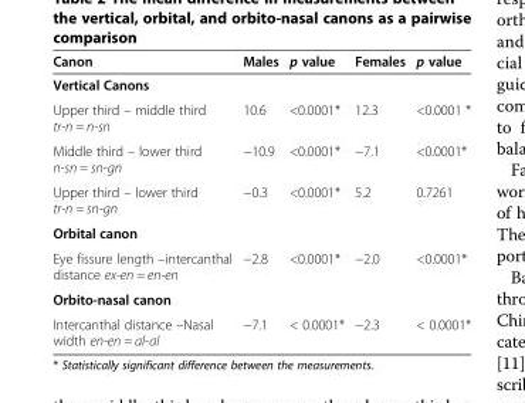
<table><thead><tr><td>Canon</td><td>Males</td><td>p value</td><td>Females</td><td>p value</td></tr></thead><tbody><tr><td colspan="5">Vertical Canons</td></tr><tr><td>Upper third – middle third tr-n = n-sn</td><td>10.6</td><td>&lt;0.0001*</td><td>12.3</td><td>&lt;0.0001 *</td></tr><tr><td>Middle third – lower third n-sn = sn-gn</td><td>−10.9</td><td>&lt;0.0001*</td><td>−7.1</td><td>&lt;0.0001*</td></tr><tr><td>Upper third – lower third tr-n = sn-gn</td><td>−0.3</td><td>&lt;0.0001*</td><td>5.2</td><td>0.7261</td></tr><tr><td colspan="5">Orbital canon</td></tr><tr><td>Eye fissure length –intercanthal distance ex-en = en-en</td><td>−2.8</td><td>&lt;0.0001*</td><td>−2.0</td><td>&lt;0.0001*</td></tr><tr><td colspan="5">Orbito-nasal canon</td></tr><tr><td>Intercanthal distance –Nasal width en-en = al-al</td><td>−7.1</td><td>&lt; 0.0001*</td><td>−2.3</td><td>&lt; 0.0001*</td></tr></tbody></table>